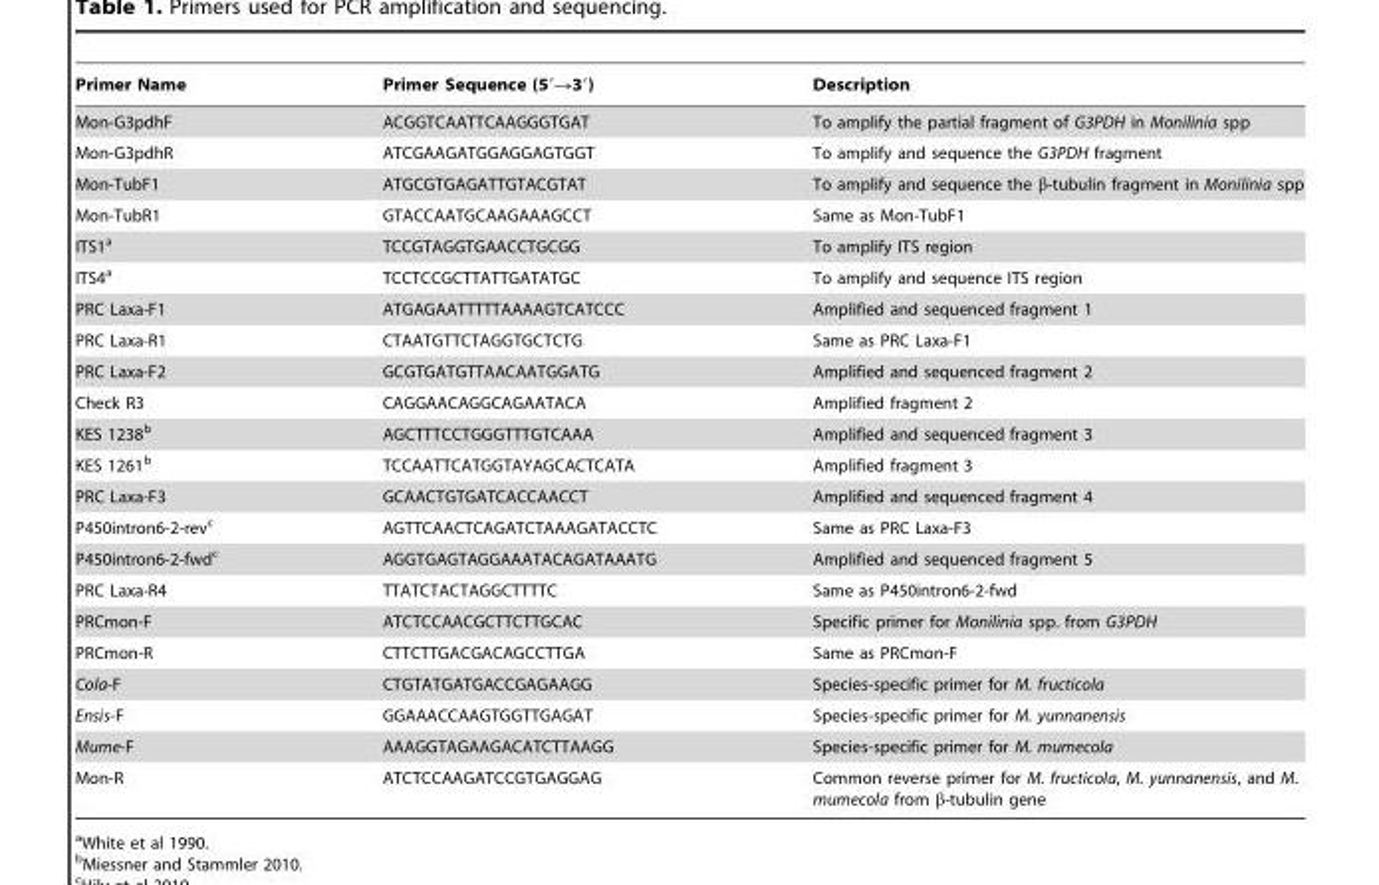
<table><thead><tr><td>Primer Name</td><td>Primer Sequence (5′→3′)</td><td>Description</td></tr></thead><tbody><tr><td>Mon-G3pdhF</td><td>ACGGTCAATTCAAGGGTGAT</td><td>To amplify the partial fragment of G3PDH in Monilinia spp</td></tr><tr><td>Mon-G3pdhR</td><td>ATCGAAGATGGAGGAGTGGT</td><td>To amplify and sequence the G3PDH fragment</td></tr><tr><td>Mon-TubF1</td><td>ATGCGTGAGATTGTACGTAT</td><td>To amplify and sequence the β-tubulin fragment in Monilinia spp</td></tr><tr><td>Mon-TubR1</td><td>GTACCAATGCAAGAAAGCCT</td><td>Same as Mon-TubF1</td></tr><tr><td>ITS1<sup>a</sup></td><td>TCCGTAGGTGAACCTGCGG</td><td>To amplify ITS region</td></tr><tr><td>ITS4<sup>a</sup></td><td>TCCTCCGCTTATTGATATGC</td><td>To amplify and sequence ITS region</td></tr><tr><td>PRC Laxa-F1</td><td>ATGAGAATTTTTAAAAGTCATCCC</td><td>Amplified and sequenced fragment 1</td></tr><tr><td>PRC Laxa-R1</td><td>CTAATGTTCTAGGTGCTCTG</td><td>Same as PRC Laxa-F1</td></tr><tr><td>PRC Laxa-F2</td><td>GCGTGATGTTAACAATGGATG</td><td>Amplified and sequenced fragment 2</td></tr><tr><td>Check R3</td><td>CAGGAACAGGCAGAATACA</td><td>Amplified fragment 2</td></tr><tr><td>KES 1238<sup>b</sup></td><td>AGCTTTCCTGGGTTTGTCAAA</td><td>Amplified and sequenced fragment 3</td></tr><tr><td>KES 1261<sup>b</sup></td><td>TCCAATTCATGGTAYAGCACTCATA</td><td>Amplified fragment 3</td></tr><tr><td>PRC Laxa-F3</td><td>GCAACTGTGATCACCAACCT</td><td>Amplified and sequenced fragment 4</td></tr><tr><td>P450intron6-2-rev<sup>c</sup></td><td>AGTTCAACTCAGATCTAAAGATACCTC</td><td>Same as PRC Laxa-F3</td></tr><tr><td>P450intron6-2-fwd<sup>c</sup></td><td>AGGTGAGTAGGAAATACAGATAAATG</td><td>Amplified and sequenced fragment 5</td></tr><tr><td>PRC Laxa-R4</td><td>TTATCTACTAGGCTTTTC</td><td>Same as P450intron6-2-fwd</td></tr><tr><td>PRCmon-F</td><td>ATCTCCAACGCTTCTTGCAC</td><td>Specific primer for Monilinia spp. from G3PDH</td></tr><tr><td>PRCmon-R</td><td>CTTCTTGACGACAGCCTTGA</td><td>Same as PRCmon-F</td></tr><tr><td>Cola-F</td><td>CTGTATGATGACCGAGAAGG</td><td>Species-specific primer for M. fructicola</td></tr><tr><td>Ensis-F</td><td>GGAAACCAAGTGGTTGAGAT</td><td>Species-specific primer for M. yunnanensis</td></tr><tr><td>Mume-F</td><td>AAAGGTAGAAGACATCTTAAGG</td><td>Species-specific primer for M. mumecola</td></tr><tr><td>Mon-R</td><td>ATCTCCAAGATCCGTGAGGAG</td><td>Common reverse primer for M. fructicola, M. yunnanensis, and M. mumecola from β-tubulin gene</td></tr></tbody></table>